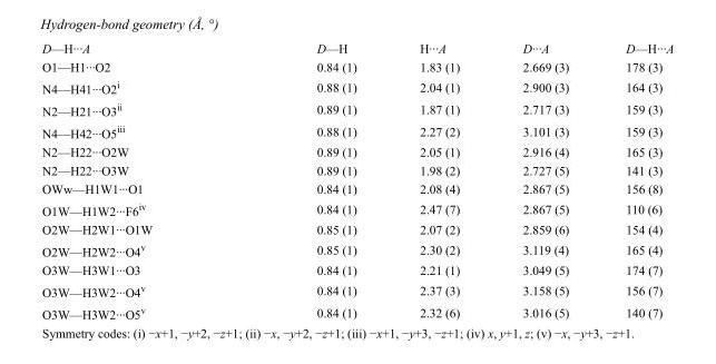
<table><tbody><tr><td>D—H···A</td><td>D—H</td><td>H···A</td><td>D···A</td><td>D—H···A</td></tr><tr><td>O1—H1···O2</td><td>0.84 (1)</td><td>1.83 (1)</td><td>2.669 (3)</td><td>178 (3)</td></tr><tr><td>N4—H41···O2<sup>i</sup></td><td>0.88 (1)</td><td>2.04 (1)</td><td>2.900 (3)</td><td>164 (3)</td></tr><tr><td>N2—H21···O3<sup>ii</sup></td><td>0.89 (1)</td><td>1.87 (1)</td><td>2.717 (3)</td><td>159 (3)</td></tr><tr><td>N4—H42···O5<sup>iii</sup></td><td>0.88 (1)</td><td>2.27 (2)</td><td>3.101 (3)</td><td>159 (3)</td></tr><tr><td>N2—H22···O2W</td><td>0.89 (1)</td><td>2.05 (1)</td><td>2.916 (4)</td><td>165 (3)</td></tr><tr><td>N2—H22···O3W</td><td>0.89 (1)</td><td>1.98 (2)</td><td>2.727 (5)</td><td>141 (3)</td></tr><tr><td>OWw—H1W1···O1</td><td>0.84 (1)</td><td>2.08 (4)</td><td>2.867 (5)</td><td>156 (8)</td></tr><tr><td>O1W—H1W2···F6<sup>iv</sup></td><td>0.84 (1)</td><td>2.47 (7)</td><td>2.867 (5)</td><td>110 (6)</td></tr><tr><td>O2W—H2W1···O1W</td><td>0.85 (1)</td><td>2.07 (2)</td><td>2.859 (6)</td><td>154 (4)</td></tr><tr><td>O2W—H2W2···O4<sup>v</sup></td><td>0.85 (1)</td><td>2.30 (2)</td><td>3.119 (4)</td><td>165 (4)</td></tr><tr><td>O3W—H3W1···O3</td><td>0.84 (1)</td><td>2.21 (1)</td><td>3.049 (5)</td><td>174 (7)</td></tr><tr><td>O3W—H3W2···O4<sup>v</sup></td><td>0.84 (1)</td><td>2.37 (3)</td><td>3.158 (5)</td><td>156 (7)</td></tr><tr><td>O3W—H3W2···O5<sup>v</sup></td><td>0.84 (1)</td><td>2.32 (6)</td><td>3.016 (5)</td><td>140 (7)</td></tr></tbody></table>